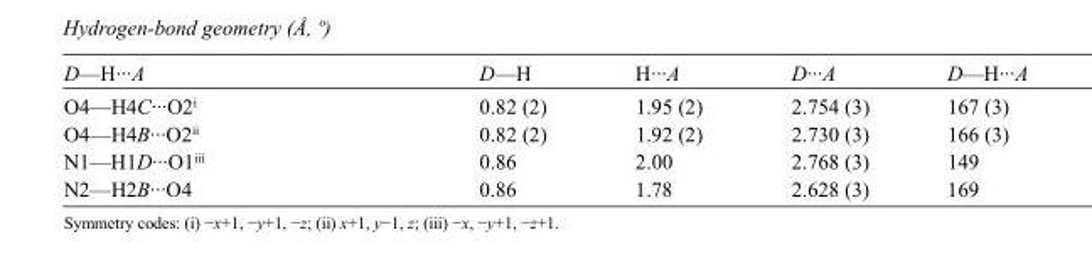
<table><tbody><tr><td>D—H···A</td><td>D—H</td><td>H···A</td><td>D···A</td><td>D—H···A</td></tr><tr><td>O4—H4C···O2<sup>i</sup></td><td>0.82 (2)</td><td>1.95 (2)</td><td>2.754 (3)</td><td>167 (3)</td></tr><tr><td>O4—H4B···O2<sup>ii</sup></td><td>0.82 (2)</td><td>1.92 (2)</td><td>2.730 (3)</td><td>166 (3)</td></tr><tr><td>N1—H1D···O1<sup>iii</sup></td><td>0.86</td><td>2.00</td><td>2.768 (3)</td><td>149</td></tr><tr><td>N2—H2B···O4</td><td>0.86</td><td>1.78</td><td>2.628 (3)</td><td>169</td></tr></tbody></table>